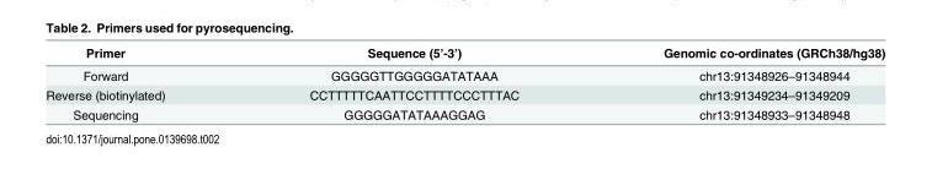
<table><thead><tr><td>Primer</td><td>Sequence (5’-3’)</td><td>Genomic co-ordinates (GRCh38/hg38)</td></tr></thead><tbody><tr><td>Forward</td><td>GGGGGTTGGGGGATATAAA</td><td>chr13:91348926–91348944</td></tr><tr><td>Reverse (biotinylated)</td><td>CCTTTTTCAATTCCTTTTCCCTTTAC</td><td>chr13:91349234–91349209</td></tr><tr><td>Sequencing</td><td>GGGGGATATAAAGGAG</td><td>chr13:91348933–91348948</td></tr></tbody></table>